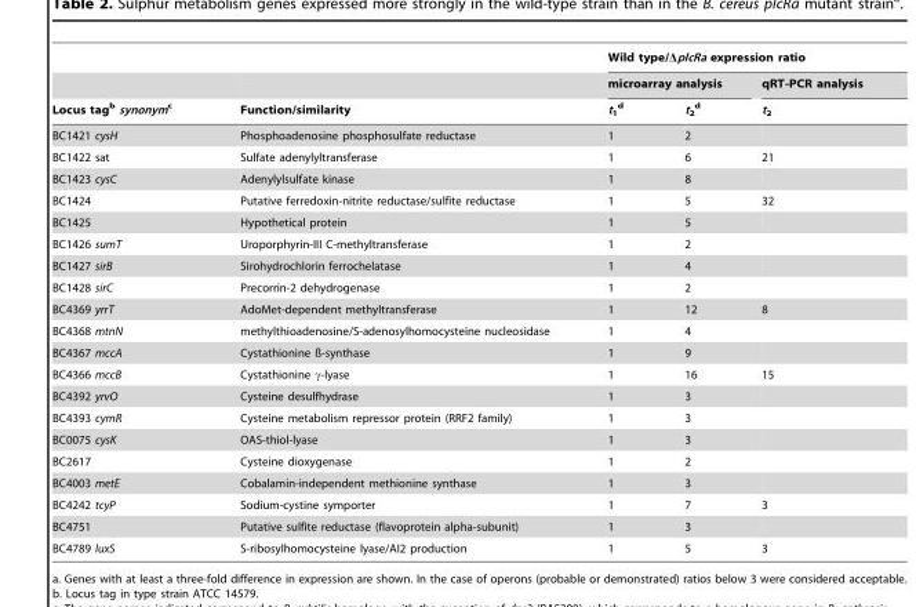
<table><thead><tr><td rowspan="3">Locus tag<sup>b</sup> synonym<sup>c</sup></td><td rowspan="3">Function/similarity</td><td colspan="3">Wild type/ΔplcRa expression ratio</td></tr><tr><td colspan="2">microarray analysis</td><td rowspan="2">qRT-PCR analysis t<sub>2</sub></td></tr><tr><td>t<sub>1</sub> <sup>d</sup></td><td>t<sub>2</sub> <sup>d</sup></td></tr></thead><tbody><tr><td>BC1421 cysH</td><td>Phosphoadenosine phosphosulfate reductase</td><td>1</td><td>2</td><td></td></tr><tr><td>BC1422 sat</td><td>Sulfate adenylyltransferase</td><td>1</td><td>6</td><td>21</td></tr><tr><td>BC1423 cysC</td><td>Adenylylsulfate kinase</td><td>1</td><td>8</td><td></td></tr><tr><td>BC1424</td><td>Putative ferredoxin-nitrite reductase/sulfite reductase</td><td>1</td><td>5</td><td>32</td></tr><tr><td>BC1425</td><td>Hypothetical protein</td><td>1</td><td>5</td><td></td></tr><tr><td>BC1426 sumT</td><td>Uroporphyrin-III C-methyltransferase</td><td>1</td><td>2</td><td></td></tr><tr><td>BC1427 sirB</td><td>Sirohydrochlorin ferrochelatase</td><td>1</td><td>4</td><td></td></tr><tr><td>BC1428 sirC</td><td>Precorrin-2 dehydrogenase</td><td>1</td><td>2</td><td></td></tr><tr><td>BC4369 yrrT</td><td>AdoMet-dependent methyltransferase</td><td>1</td><td>12</td><td>8</td></tr><tr><td>BC4368 mtnN</td><td>methylthioadenosine/S-adenosylhomocysteine nucleosidase</td><td>1</td><td>4</td><td></td></tr><tr><td>BC4367 mccA</td><td>Cystathionine ß-synthase</td><td>1</td><td>9</td><td></td></tr><tr><td>BC4366 mccB</td><td>Cystathionine γ-lyase</td><td>1</td><td>16</td><td>15</td></tr><tr><td>BC4392 yrvO</td><td>Cysteine desulfhydrase</td><td>1</td><td>3</td><td></td></tr><tr><td>BC4393 cymR</td><td>Cysteine metabolism repressor protein (RRF2 family)</td><td>1</td><td>3</td><td></td></tr><tr><td>BC0075 cysK</td><td>OAS-thiol-lyase</td><td>1</td><td>3</td><td></td></tr><tr><td>BC2617</td><td>Cysteine dioxygenase</td><td>1</td><td>2</td><td></td></tr><tr><td>BC4003 metE</td><td>Cobalamin-independent methionine synthase</td><td>1</td><td>3</td><td></td></tr><tr><td>BC4242 tcyP</td><td>Sodium-cystine symporter</td><td>1</td><td>7</td><td>3</td></tr><tr><td>BC4751</td><td>Putative sulfite reductase (flavoprotein alpha-subunit)</td><td>1</td><td>3</td><td></td></tr><tr><td>BC4789 luxS</td><td>S-ribosylhomocysteine lyase/AI2 production</td><td>1</td><td>5</td><td>3</td></tr></tbody></table>